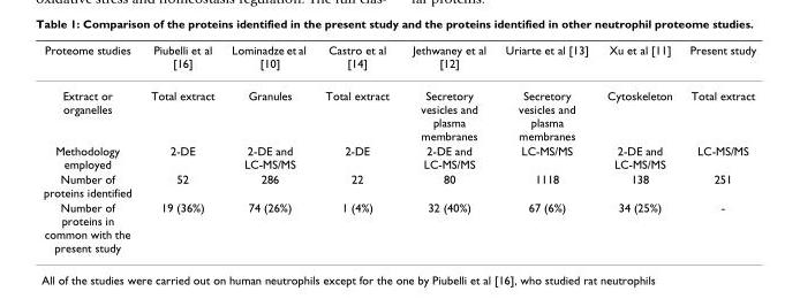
<table><thead><tr><td>Proteome studies</td><td>Piubelli et al [16]</td><td>Lominadze et al [10]</td><td>Castro et al [14]</td><td>Jethwaney et al [12]</td><td>Uriarte et al [13]</td><td>Xu et al [11]</td><td>Present study</td></tr></thead><tbody><tr><td>Extract or organelles</td><td>Total extract</td><td>Granules</td><td>Total extract</td><td>Secretory vesicles and plasma membranes</td><td>Secretory vesicles and plasma membranes</td><td>Cytoskeleton</td><td>Total extract</td></tr><tr><td>Methodology employed</td><td>2-DE</td><td>2-DE and LC-MS/MS</td><td>2-DE</td><td>2-DE and LC-MS/MS</td><td>LC-MS/MS</td><td>2-DE and LC-MS/MS</td><td>LC-MS/MS</td></tr><tr><td>Number of proteins identified</td><td>52</td><td>286</td><td>22</td><td>80</td><td>1118</td><td>138</td><td>251</td></tr><tr><td>Number of proteins in common with the present study</td><td>19 (36%)</td><td>74 (26%)</td><td>1 (4%)</td><td>32 (40%)</td><td>67 (6%)</td><td>34 (25%)</td><td>-</td></tr></tbody></table>